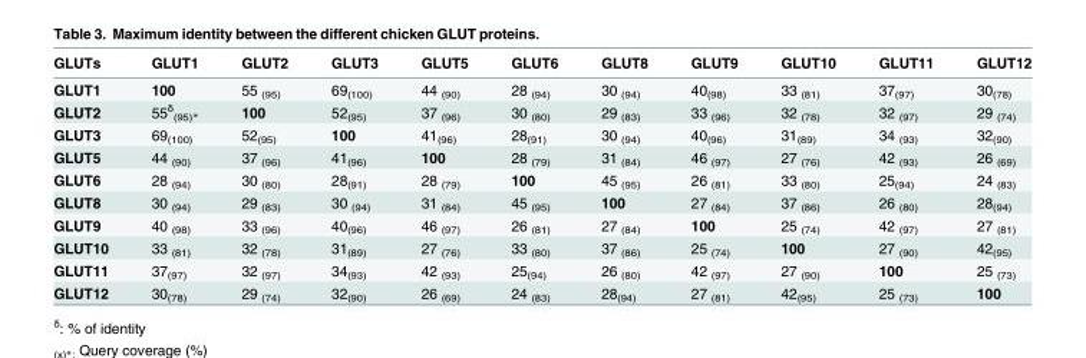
<table><thead><tr><td>GLUTs</td><td>GLUT1</td><td>GLUT2</td><td>GLUT3</td><td>GLUT5</td><td>GLUT6</td><td>GLUT8</td><td>GLUT9</td><td>GLUT10</td><td>GLUT11</td><td>GLUT12</td></tr></thead><tbody><tr><td>GLUT1</td><td>100</td><td>55 <sub>(95)</sub></td><td>69<sub>(100)</sub></td><td>44 <sub>(90)</sub></td><td>28 <sub>(94)</sub></td><td>30 <sub>(94)</sub></td><td>40<sub>(98)</sub></td><td>33 <sub>(81)</sub></td><td>37<sub>(97)</sub></td><td>30<sub>(78)</sub></td></tr><tr><td>GLUT2</td><td>55<sup>δ</sup> <sub>(95)*</sub></td><td>100</td><td>52<sub>(95)</sub></td><td>37 <sub>(96)</sub></td><td>30 <sub>(80)</sub></td><td>29 <sub>(83)</sub></td><td>33 <sub>(96)</sub></td><td>32 <sub>(78)</sub></td><td>32 <sub>(97)</sub></td><td>29 <sub>(74)</sub></td></tr><tr><td>GLUT3</td><td>69<sub>(100)</sub></td><td>52<sub>(95)</sub></td><td>100</td><td>41<sub>(96)</sub></td><td>28<sub>(91)</sub></td><td>30 <sub>(94)</sub></td><td>40<sub>(96)</sub></td><td>31<sub>(89)</sub></td><td>34 <sub>(93)</sub></td><td>32<sub>(90)</sub></td></tr><tr><td>GLUT5</td><td>44 <sub>(90)</sub></td><td>37 <sub>(96)</sub></td><td>41<sub>(96)</sub></td><td>100</td><td>28 <sub>(79)</sub></td><td>31 <sub>(84)</sub></td><td>46 <sub>(97)</sub></td><td>27 <sub>(76)</sub></td><td>42 <sub>(93)</sub></td><td>26 <sub>(69)</sub></td></tr><tr><td>GLUT6</td><td>28 <sub>(94)</sub></td><td>30 <sub>(80)</sub></td><td>28<sub>(91)</sub></td><td>28 <sub>(79)</sub></td><td>100</td><td>45 <sub>(95)</sub></td><td>26 <sub>(81)</sub></td><td>33 <sub>(80)</sub></td><td>25<sub>(94)</sub></td><td>24 <sub>(83)</sub></td></tr><tr><td>GLUT8</td><td>30 <sub>(94)</sub></td><td>29 <sub>(83)</sub></td><td>30 <sub>(94)</sub></td><td>31 <sub>(84)</sub></td><td>45 <sub>(95)</sub></td><td>100</td><td>27 <sub>(84)</sub></td><td>37 <sub>(86)</sub></td><td>26 <sub>(80)</sub></td><td>28<sub>(94)</sub></td></tr><tr><td>GLUT9</td><td>40 <sub>(98)</sub></td><td>33 <sub>(96)</sub></td><td>40<sub>(96)</sub></td><td>46 <sub>(97)</sub></td><td>26 <sub>(81)</sub></td><td>27 <sub>(84)</sub></td><td>100</td><td>25 <sub>(74)</sub></td><td>42 <sub>(97)</sub></td><td>27 <sub>(81)</sub></td></tr><tr><td>GLUT10</td><td>33 <sub>(81)</sub></td><td>32 <sub>(78)</sub></td><td>31<sub>(89)</sub></td><td>27 <sub>(76)</sub></td><td>33 <sub>(80)</sub></td><td>37 <sub>(86)</sub></td><td>25 <sub>(74)</sub></td><td>100</td><td>27 <sub>(90)</sub></td><td>42<sub>(95)</sub></td></tr><tr><td>GLUT11</td><td>37<sub>(97)</sub></td><td>32 <sub>(97)</sub></td><td>34<sub>(93)</sub></td><td>42 <sub>(93)</sub></td><td>25<sub>(94)</sub></td><td>26 <sub>(80)</sub></td><td>42 <sub>(97)</sub></td><td>27 <sub>(90)</sub></td><td>100</td><td>25 <sub>(73)</sub></td></tr><tr><td>GLUT12</td><td>30<sub>(78)</sub></td><td>29 <sub>(74)</sub></td><td>32<sub>(90)</sub></td><td>26 <sub>(69)</sub></td><td>24 <sub>(83)</sub></td><td>28<sub>(94)</sub></td><td>27 <sub>(81)</sub></td><td>42<sub>(95)</sub></td><td>25 <sub>(73)</sub></td><td>100</td></tr></tbody></table>